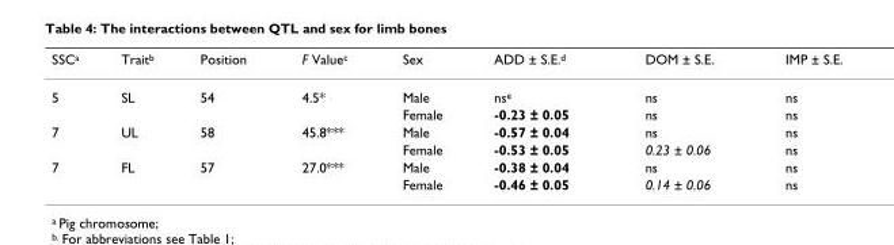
<table><thead><tr><td>SSC<sup>a</sup></td><td>Trait<sup>b</sup></td><td>Position</td><td>F Value<sup>c</sup></td><td>Sex</td><td>ADD ± S.E.<sup>d</sup></td><td>DOM ± S.E.</td><td>IMP ± S.E.</td></tr></thead><tbody><tr><td rowspan="2">5</td><td>SL</td><td>54</td><td>4.5*</td><td>Male</td><td>ns<sup>e</sup></td><td>ns</td><td>ns</td></tr><tr><td></td><td></td><td></td><td>Female</td><td>-0.23 ± 0.05</td><td>ns</td><td>ns</td></tr><tr><td rowspan="2">7</td><td>UL</td><td>58</td><td>45.8***</td><td>Male</td><td>-0.57 ± 0.04</td><td>ns</td><td>ns</td></tr><tr><td></td><td></td><td></td><td>Female</td><td>-0.53 ± 0.05</td><td>0.23 ± 0.06</td><td>ns</td></tr><tr><td rowspan="2">7</td><td>FL</td><td>57</td><td>27.0***</td><td>Male</td><td>-0.38 ± 0.04</td><td>ns</td><td>ns</td></tr><tr><td></td><td></td><td></td><td>Female</td><td>-0.46 ± 0.05</td><td>0.14 ± 0.06</td><td>ns</td></tr></tbody></table>